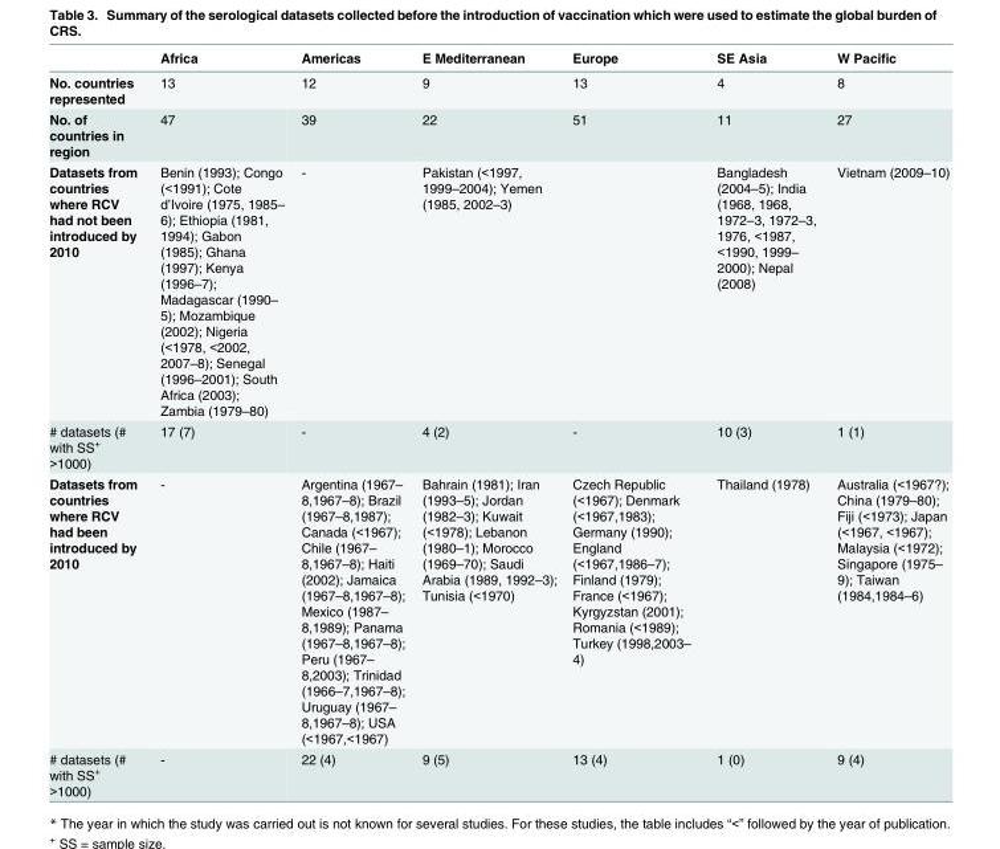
<table><thead><tr><td></td><td>Africa</td><td>Americas</td><td>E Mediterranean</td><td>Europe</td><td>SE Asia</td><td>W Pacific</td></tr></thead><tbody><tr><td>No. countries represented</td><td>13</td><td>12</td><td>9</td><td>13</td><td>4</td><td>8</td></tr><tr><td>No. of countries in region</td><td>47</td><td>39</td><td>22</td><td>51</td><td>11</td><td>27</td></tr><tr><td>Datasets from countries where RCV had not been introduced by 2010</td><td>Benin (1993); Congo (&lt;1991); Cote d’Ivoire (1975, 1985– 6); Ethiopia (1981, 1994); Gabon (1985); Ghana (1997); Kenya (1996–7); Madagascar (1990– 5); Mozambique (2002); Nigeria (&lt;1978, &lt;2002, 2007–8); Senegal (1996–2001); South Africa (2003); Zambia (1979–80)</td><td>-</td><td>Pakistan (&lt;1997, 1999–2004); Yemen (1985, 2002–3)</td><td></td><td>Bangladesh (2004–5); India (1968, 1968, 1972–3, 1972–3, 1976, &lt;1987, &lt;1990, 1999– 2000); Nepal (2008)</td><td>Vietnam (2009–10)</td></tr><tr><td># datasets (# with SS<sup>+</sup> &gt;1000)</td><td>17 (7)</td><td>-</td><td>4 (2)</td><td>-</td><td>10 (3)</td><td>1 (1)</td></tr><tr><td>Datasets from countries where RCV had been introduced by 2010</td><td>-</td><td>Argentina (1967– 8,1967–8); Brazil (1967–8,1987); Canada (&lt;1967); Chile (1967– 8,1967–8); Haiti (2002); Jamaica (1967–8,1967–8); Mexico (1987– 8,1989); Panama (1967–8,1967–8); Peru (1967– 8,2003); Trinidad (1966–7,1967–8); Uruguay (1967– 8,1967–8); USA (&lt;1967,&lt;1967)</td><td>Bahrain (1981); Iran (1993–5); Jordan (1982–3); Kuwait (&lt;1978); Lebanon (1980–1); Morocco (1969–70); Saudi Arabia (1989, 1992–3); Tunisia (&lt;1970)</td><td>Czech Republic (&lt;1967); Denmark (&lt;1967,1983); Germany (1990); England (&lt;1967,1986–7); Finland (1979); France (&lt;1967); Kyrgyzstan (2001); Romania (&lt;1989); Turkey (1998,2003– 4)</td><td>Thailand (1978)</td><td>Australia (&lt;1967?); China (1979–80); Fiji (&lt;1973); Japan (&lt;1967, &lt;1967); Malaysia (&lt;1972); Singapore (1975– 9); Taiwan (1984,1984–6)</td></tr><tr><td># datasets (# with SS<sup>+</sup> &gt;1000)</td><td>-</td><td>22 (4)</td><td>9 (5)</td><td>13 (4)</td><td>1 (0)</td><td>9 (4)</td></tr></tbody></table>